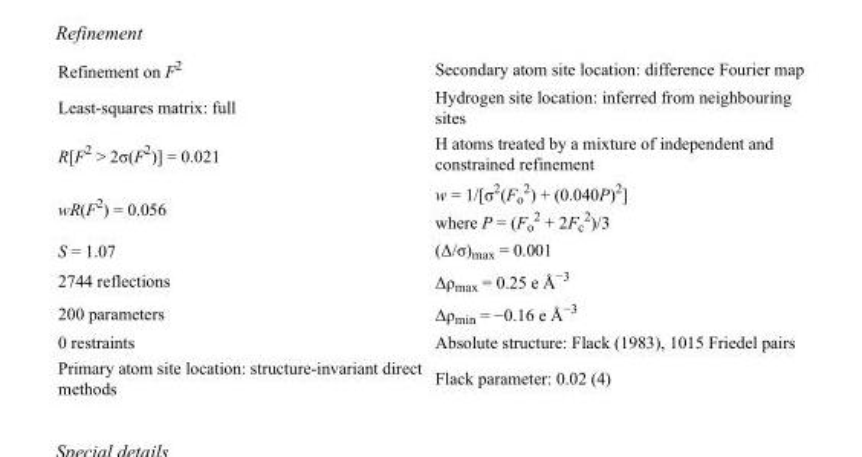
<table><tbody><tr><td>Refinement on F<sup>2</sup></td><td>Secondary atom site location: difference Fourier map</td></tr><tr><td>Least-squares matrix: full</td><td>Hydrogen site location: inferred from neighbouring sites</td></tr><tr><td>R[F<sup>2</sup> &gt; 2σ(F<sup>2</sup>)] = 0.021</td><td>H atoms treated by a mixture of independent and constrained refinement</td></tr><tr><td>wR(F<sup>2</sup>) = 0.056</td><td>w = 1/[σ<sup>2</sup>(F<sub>o</sub> <sup>2</sup>) + (0.040P)<sup>2</sup>] where P = (F<sub>o</sub> <sup>2</sup> + 2F<sub>c</sub> <sup>2</sup>)/3</td></tr><tr><td>S = 1.07</td><td>(Δ/σ)<sub>max</sub> = 0.001</td></tr><tr><td>2744 reflections</td><td>Δρ<sub>max</sub> = 0.25 e Å<sup>−3</sup></td></tr><tr><td>200 parameters</td><td>Δρ<sub>min</sub> = −0.16 e Å<sup>−3</sup></td></tr><tr><td>0 restraints</td><td>Absolute structure: Flack (1983), 1015 Friedel pairs</td></tr><tr><td>Primary atom site location: structure-invariant direct methods</td><td>Flack parameter: 0.02 (4)</td></tr></tbody></table>